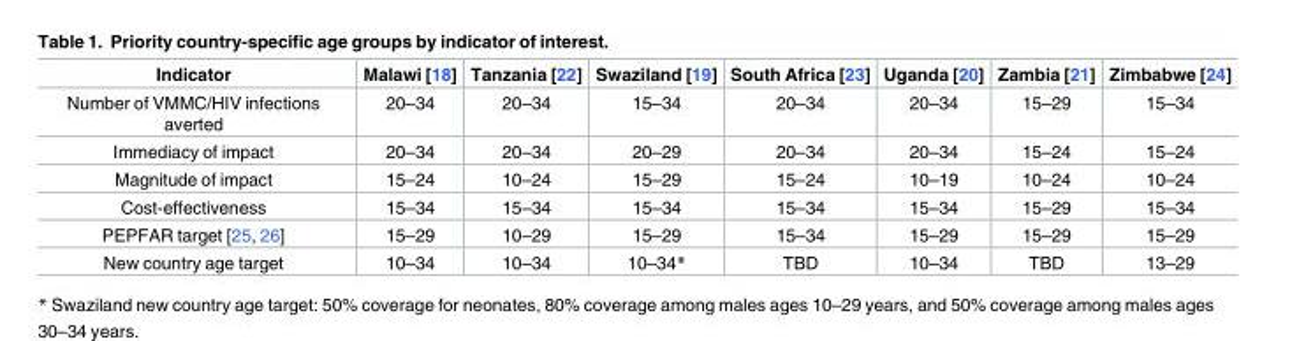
<table><thead><tr><td>Indicator</td><td>Malawi [18]</td><td>Tanzania [22]</td><td>Swaziland [19]</td><td>South Africa [23]</td><td>Uganda [20]</td><td>Zambia [21]</td><td>Zimbabwe [24]</td></tr></thead><tbody><tr><td>Number of VMMC/HIV infections averted</td><td>20–34</td><td>20–34</td><td>15–34</td><td>20–34</td><td>20–34</td><td>15–29</td><td>15–34</td></tr><tr><td>Immediacy of impact</td><td>20–34</td><td>20–34</td><td>20–29</td><td>20–34</td><td>20–34</td><td>15–24</td><td>15–24</td></tr><tr><td>Magnitude of impact</td><td>15–24</td><td>10–24</td><td>15–29</td><td>15–24</td><td>10–19</td><td>10–24</td><td>10–24</td></tr><tr><td>Cost-effectiveness</td><td>15–34</td><td>15–34</td><td>15–34</td><td>15–34</td><td>15–34</td><td>15–29</td><td>15–34</td></tr><tr><td>PEPFAR target [25, 26]</td><td>15–29</td><td>10–29</td><td>15–29</td><td>15–34</td><td>15–29</td><td>15–29</td><td>15–29</td></tr><tr><td>New country age target</td><td>10–34</td><td>10–34</td><td>10–34*</td><td>TBD</td><td>10–34</td><td>TBD</td><td>13–29</td></tr></tbody></table>